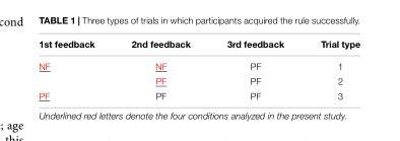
<table><thead><tr><td>1st feedback</td><td>2nd feedback</td><td>3rd feedback</td><td>Trial type</td></tr></thead><tbody><tr><td rowspan="2">NF</td><td>NF</td><td>PF</td><td>1</td></tr><tr><td>PF</td><td>PF</td><td>2</td></tr><tr><td>PF</td><td>PF</td><td>PF</td><td>3</td></tr></tbody></table>